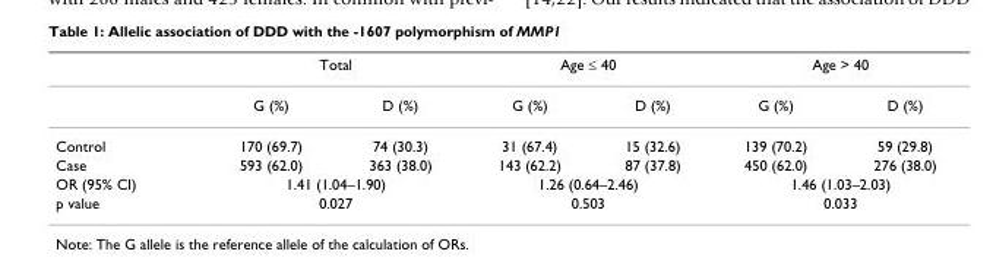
<table><thead><tr><td rowspan="2"></td><td colspan="2">Total</td><td colspan="2">Age ≤ 40</td><td colspan="2">Age &gt; 40</td></tr><tr><td>G (%)</td><td>D (%)</td><td>G (%)</td><td>D (%)</td><td>G (%)</td><td>D (%)</td></tr></thead><tbody><tr><td>Control</td><td>170 (69.7)</td><td>74 (30.3)</td><td>31 (67.4)</td><td>15 (32.6)</td><td>139 (70.2)</td><td>59 (29.8)</td></tr><tr><td>Case</td><td>593 (62.0)</td><td>363 (38.0)</td><td>143 (62.2)</td><td>87 (37.8)</td><td>450 (62.0)</td><td>276 (38.0)</td></tr><tr><td>OR (95% CI)</td><td colspan="2">1.41 (1.04–1.90)</td><td colspan="2">1.26 (0.64–2.46)</td><td colspan="2">1.46 (1.03–2.03)</td></tr><tr><td>p value</td><td colspan="2">0.027</td><td colspan="2">0.503</td><td colspan="2">0.033</td></tr></tbody></table>